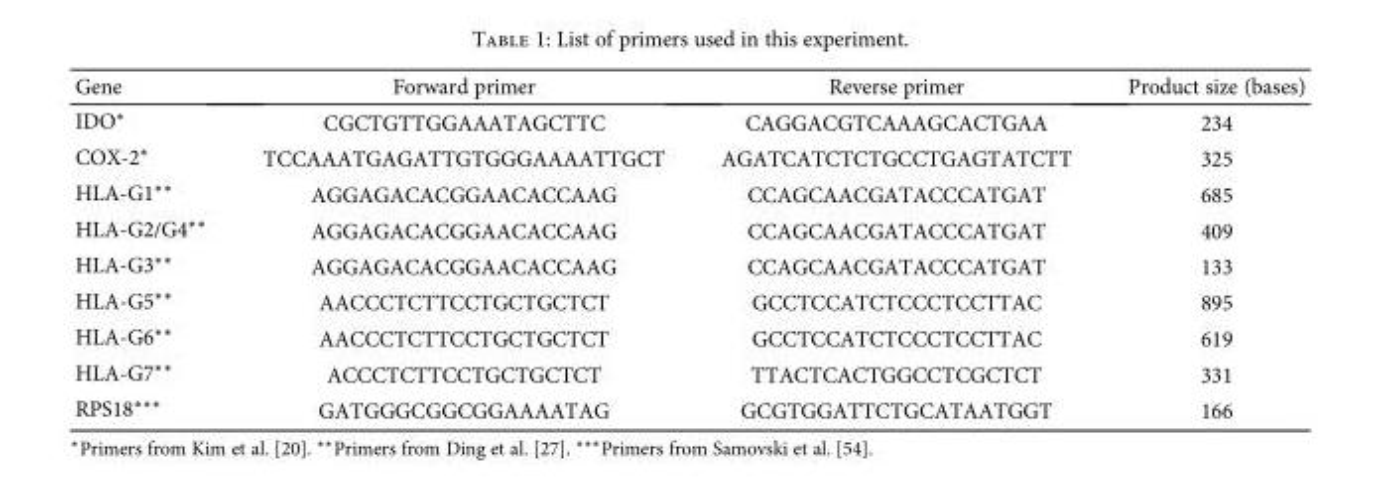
<table><thead><tr><td>Gene</td><td>Forward primer</td><td>Reverse primer</td><td>Product size (bases)</td></tr></thead><tbody><tr><td>IDO∗</td><td>CGCTGTTGGAAATAGCTTC</td><td>CAGGACGTCAAAGCACTGAA</td><td>234</td></tr><tr><td>COX-2∗</td><td>TCCAAATGAGATTGTGGGAAAATTGCT</td><td>AGATCATCTCTGCCTGAGTATCTT</td><td>325</td></tr><tr><td>HLA-G1∗∗</td><td>AGGAGACACGGAACACCAAG</td><td>CCAGCAACGATACCCATGAT</td><td>685</td></tr><tr><td>HLA-G2/G4∗∗</td><td>AGGAGACACGGAACACCAAG</td><td>CCAGCAACGATACCCATGAT</td><td>409</td></tr><tr><td>HLA-G3∗∗</td><td>AGGAGACACGGAACACCAAG</td><td>CCAGCAACGATACCCATGAT</td><td>133</td></tr><tr><td>HLA-G5∗∗</td><td>AACCCTCTTCCTGCTGCTCT</td><td>GCCTCCATCTCCCTCCTTAC</td><td>895</td></tr><tr><td>HLA-G6∗∗</td><td>AACCCTCTTCCTGCTGCTCT</td><td>GCCTCCATCTCCCTCCTTAC</td><td>619</td></tr><tr><td>HLA-G7∗∗</td><td>ACCCTCTTCCTGCTGCTCT</td><td>TTACTCACTGGCCTCGCTCT</td><td>331</td></tr><tr><td>RPS18∗∗∗</td><td>GATGGGCGGCGGAAAATAG</td><td>GCGTGGATTCTGCATAATGGT</td><td>166</td></tr></tbody></table>